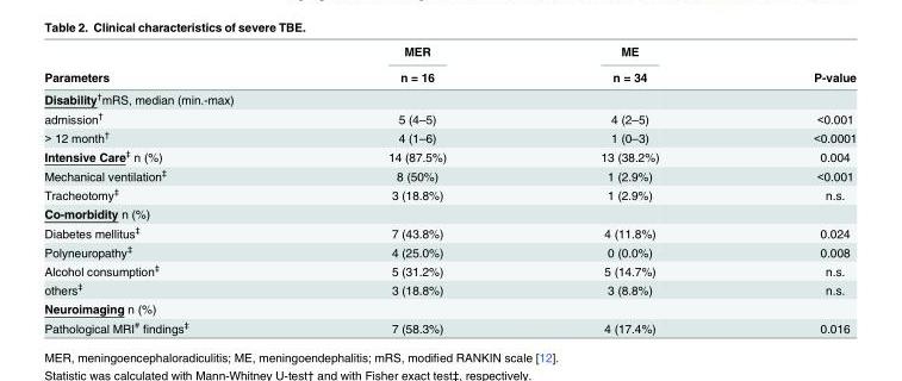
<table><thead><tr><td rowspan="2">Parameters</td><td rowspan="2">MER n = 16</td><td rowspan="2">ME n = 34</td><td rowspan="2">P-value</td></tr><tr></tr></thead><tbody><tr><td colspan="4">Disability<sup>†</sup>mRS, median (min.-max)</td></tr><tr><td>admission<sup>†</sup></td><td>5 (4–5)</td><td>4 (2–5)</td><td>&lt;0.001</td></tr><tr><td>&gt; 12 month<sup>†</sup></td><td>4 (1–6)</td><td>1 (0–3)</td><td>&lt;0.0001</td></tr><tr><td>Intensive Care<sup>‡</sup> n (%)</td><td>14 (87.5%)</td><td>13 (38.2%)</td><td>0.004</td></tr><tr><td>Mechanical ventilation<sup>‡</sup></td><td>8 (50%)</td><td>1 (2.9%)</td><td>&lt;0.001</td></tr><tr><td>Tracheotomy<sup>‡</sup></td><td>3 (18.8%)</td><td>1 (2.9%)</td><td>n.s.</td></tr><tr><td colspan="4">Co-morbidity n (%)</td></tr><tr><td>Diabetes mellitus<sup>‡</sup></td><td>7 (43.8%)</td><td>4 (11.8%)</td><td>0.024</td></tr><tr><td>Polyneuropathy<sup>‡</sup></td><td>4 (25.0%)</td><td>0 (0.0%)</td><td>0.008</td></tr><tr><td>Alcohol consumption<sup>‡</sup></td><td>5 (31.2%)</td><td>5 (14.7%)</td><td>n.s.</td></tr><tr><td>others<sup>‡</sup></td><td>3 (18.8%)</td><td>3 (8.8%)</td><td>n.s.</td></tr><tr><td colspan="4">Neuroimaging n (%)</td></tr><tr><td>Pathological MRI<sup>#</sup> findings<sup>‡</sup></td><td>7 (58.3%)</td><td>4 (17.4%)</td><td>0.016</td></tr></tbody></table>